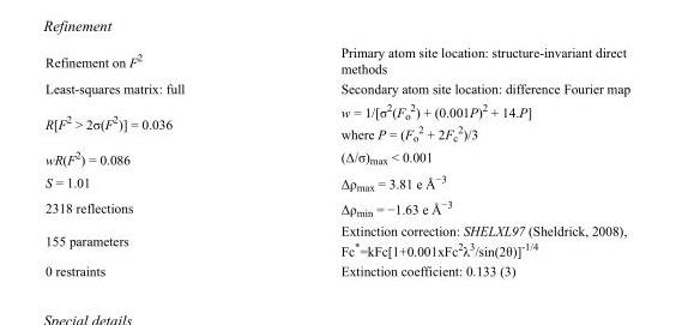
<table><tbody><tr><td>Refinement on F<sup>2</sup></td><td>Primary atom site location: structure-invariant direct methods</td></tr><tr><td>Least-squares matrix: full</td><td>Secondary atom site location: difference Fourier map</td></tr><tr><td>R[F<sup>2</sup> &gt; 2σ(F<sup>2</sup>)] = 0.036</td><td>w = 1/[σ<sup>2</sup>(F<sub>o</sub> <sup>2</sup>) + (0.001P)<sup>2</sup> + 14.P] where P = (F<sub>o</sub> <sup>2</sup> + 2F<sub>c</sub> <sup>2</sup>)/3</td></tr><tr><td>wR(F<sup>2</sup>) = 0.086</td><td>(Δ/σ)<sub>max</sub> &lt; 0.001</td></tr><tr><td>S = 1.01</td><td>Δρ<sub>max</sub> = 3.81 e Å<sup>−3</sup></td></tr><tr><td>2318 reflections</td><td>Δρ<sub>min</sub> = −1.63 e Å<sup>−3</sup></td></tr><tr><td>155 parameters</td><td>Extinction correction: SHELXL97 (Sheldrick, 2008), Fc*=kFc[1+0.001xFc<sup>2</sup>λ<sup>3</sup>/sin(2θ)]<sup>-1/4</sup></td></tr><tr><td>0 restraints</td><td>Extinction coefficient: 0.133 (3)</td></tr></tbody></table>